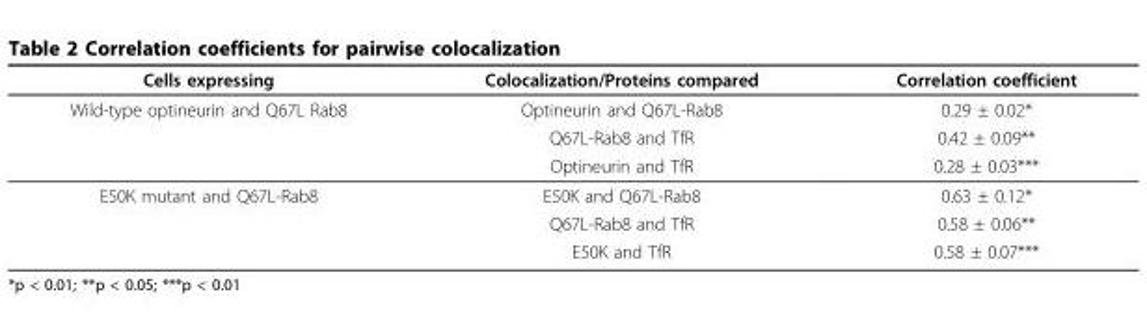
<table><thead><tr><td>Cells expressing</td><td>Colocalization/Proteins compared</td><td>Correlation coefficient</td></tr></thead><tbody><tr><td rowspan="3">Wild-type optineurin and Q67L Rab8</td><td>Optineurin and Q67L-Rab8</td><td>0.29 ± 0.02*</td></tr><tr><td>Q67L-Rab8 and TfR</td><td>0.42 ± 0.09**</td></tr><tr><td>Optineurin and TfR</td><td>0.28 ± 0.03***</td></tr><tr><td rowspan="3">E50K mutant and Q67L-Rab8</td><td>E50K and Q67L-Rab8</td><td>0.63 ± 0.12*</td></tr><tr><td>Q67L-Rab8 and TfR</td><td>0.58 ± 0.06**</td></tr><tr><td>E50K and TfR</td><td>0.58 ± 0.07***</td></tr></tbody></table>